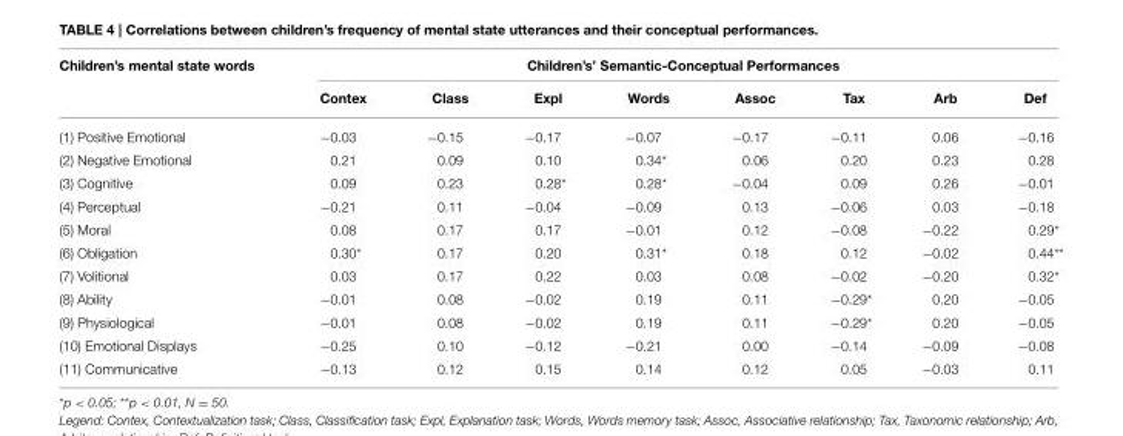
<table><thead><tr><td rowspan="2">Children’s mental state words</td><td colspan="8">Children’s’ Semantic-Conceptual Performances</td></tr><tr><td>Contex</td><td>Class</td><td>Expl</td><td>Words</td><td>Assoc</td><td>Tax</td><td>Arb</td><td>Def</td></tr></thead><tbody><tr><td>(1) Positive Emotional</td><td>−0.03</td><td>−0.15</td><td>−0.17</td><td>−0.07</td><td>−0.17</td><td>−0.11</td><td>0.06</td><td>−0.16</td></tr><tr><td>(2) Negative Emotional</td><td>0.21</td><td>0.09</td><td>0.10</td><td>0.34*</td><td>0.06</td><td>0.20</td><td>0.23</td><td>0.28</td></tr><tr><td>(3) Cognitive</td><td>0.09</td><td>0.23</td><td>0.28*</td><td>0.28*</td><td>−0.04</td><td>0.09</td><td>0.26</td><td>−0.01</td></tr><tr><td>(4) Perceptual</td><td>−0.21</td><td>0.11</td><td>−0.04</td><td>−0.09</td><td>0.13</td><td>−0.06</td><td>0.03</td><td>−0.18</td></tr><tr><td>(5) Moral</td><td>0.08</td><td>0.17</td><td>0.17</td><td>−0.01</td><td>0.12</td><td>−0.08</td><td>−0.22</td><td>0.29*</td></tr><tr><td>(6) Obligation</td><td>0.30*</td><td>0.17</td><td>0.20</td><td>0.31*</td><td>0.18</td><td>0.12</td><td>−0.02</td><td>0.44**</td></tr><tr><td>(7) Volitional</td><td>0.03</td><td>0.17</td><td>0.22</td><td>0.03</td><td>0.08</td><td>−0.02</td><td>−0.20</td><td>0.32*</td></tr><tr><td>(8) Ability</td><td>−0.01</td><td>0.08</td><td>−0.02</td><td>0.19</td><td>0.11</td><td>−0.29*</td><td>0.20</td><td>−0.05</td></tr><tr><td>(9) Physiological</td><td>−0.01</td><td>0.08</td><td>−0.02</td><td>0.19</td><td>0.11</td><td>−0.29*</td><td>0.20</td><td>−0.05</td></tr><tr><td>(10) Emotional Displays</td><td>−0.25</td><td>0.10</td><td>−0.12</td><td>−0.21</td><td>0.00</td><td>−0.14</td><td>−0.09</td><td>−0.08</td></tr><tr><td>(11) Communicative</td><td>−0.13</td><td>0.12</td><td>0.15</td><td>0.14</td><td>0.12</td><td>0.05</td><td>−0.03</td><td>0.11</td></tr></tbody></table>